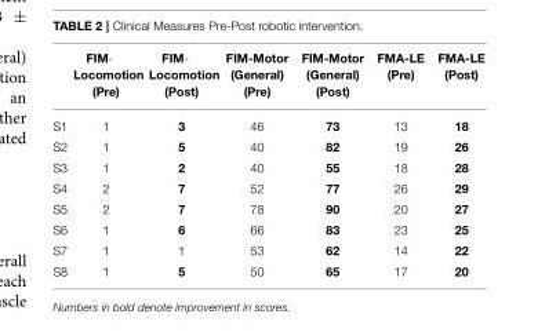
<table><thead><tr><td></td><td>FIM- Locomotion (Pre)</td><td>FIM- Locomotion (Post)</td><td>FIM-Motor (General) (Pre)</td><td>FIM-Motor (General) (Post)</td><td>FMA-LE (Pre)</td><td>FMA-LE (Post)</td></tr></thead><tbody><tr><td>S1</td><td>1</td><td>3</td><td>46</td><td>73</td><td>13</td><td>18</td></tr><tr><td>S2</td><td>1</td><td>5</td><td>40</td><td>82</td><td>19</td><td>26</td></tr><tr><td>S3</td><td>1</td><td>2</td><td>40</td><td>55</td><td>18</td><td>28</td></tr><tr><td>S4</td><td>2</td><td>7</td><td>52</td><td>77</td><td>26</td><td>29</td></tr><tr><td>S5</td><td>2</td><td>7</td><td>78</td><td>90</td><td>20</td><td>27</td></tr><tr><td>S6</td><td>1</td><td>6</td><td>66</td><td>83</td><td>23</td><td>25</td></tr><tr><td>S7</td><td>1</td><td>1</td><td>53</td><td>62</td><td>14</td><td>22</td></tr><tr><td>S8</td><td>1</td><td>5</td><td>50</td><td>65</td><td>17</td><td>20</td></tr></tbody></table>